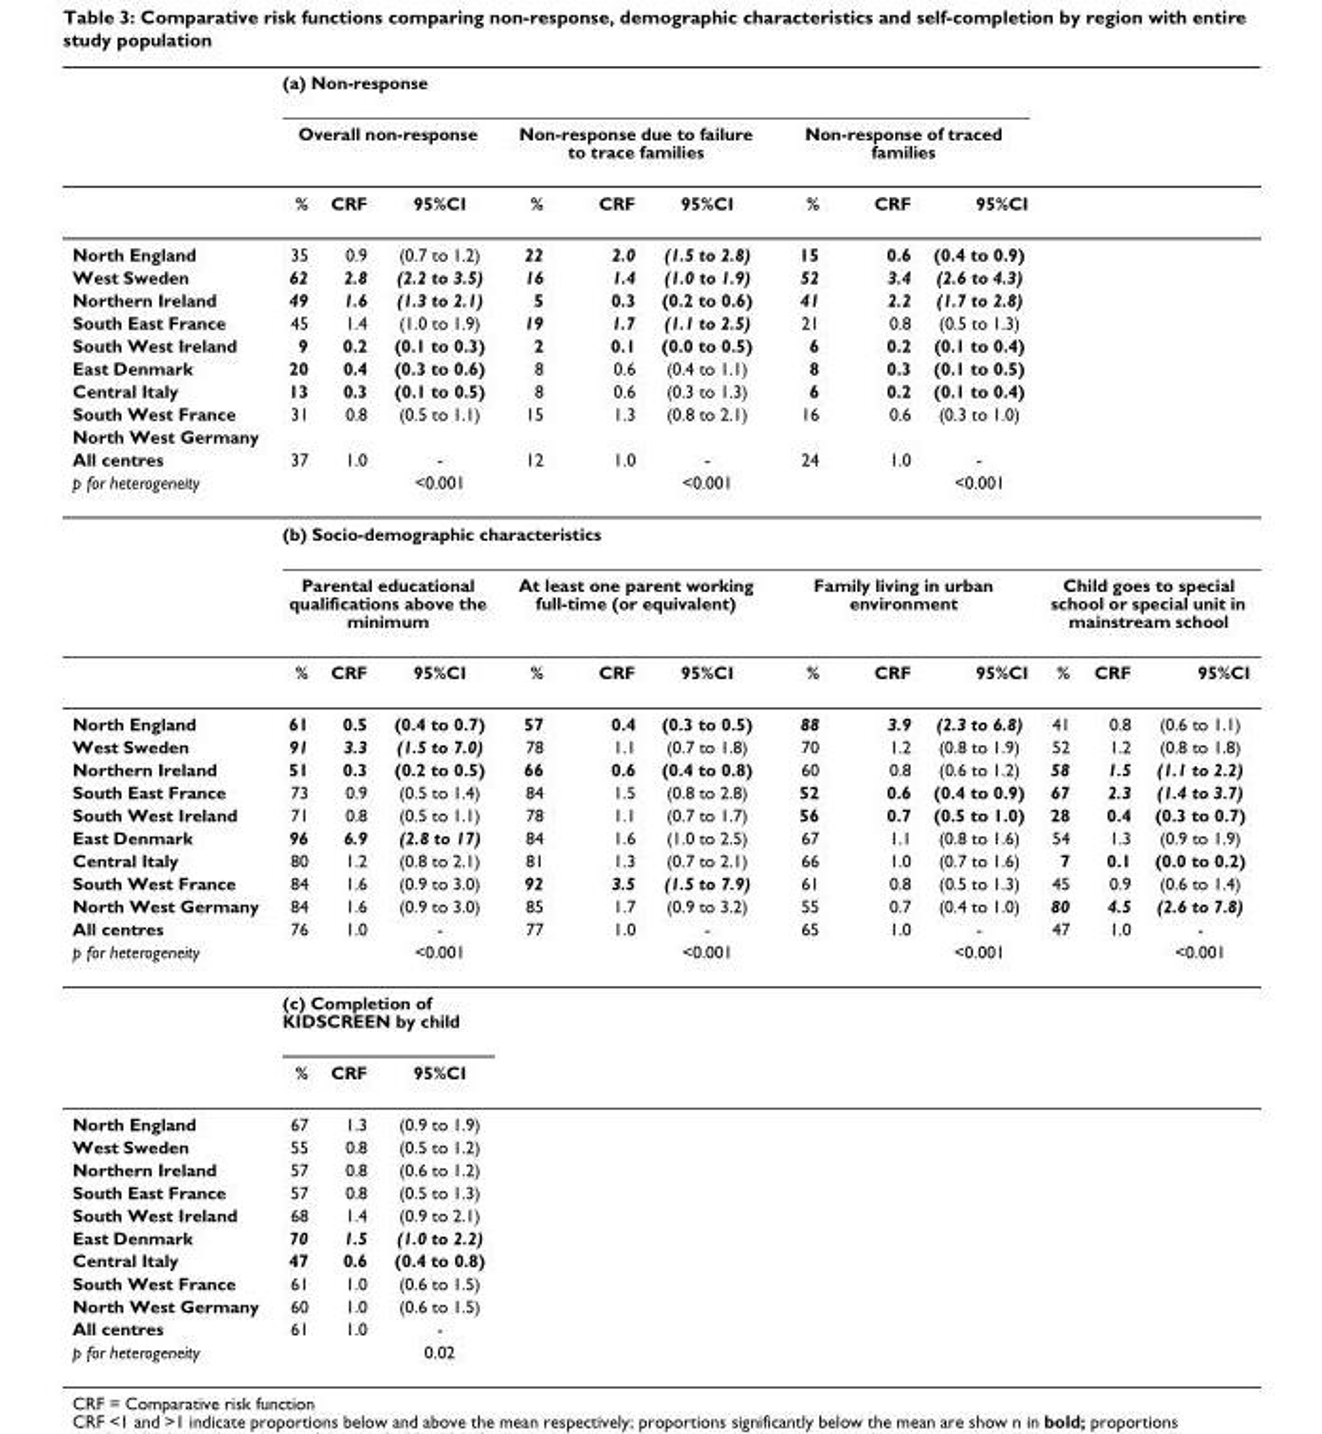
<table><thead><tr><td rowspan="3"></td><td colspan="9">(a) Non-response</td><td rowspan="3"></td><td rowspan="3"></td><td rowspan="3"></td></tr><tr><td colspan="3">Overall non-response</td><td colspan="3">Non-response due to failure to trace families</td><td colspan="3">Non-response of traced families</td></tr><tr><td>%</td><td>CRF</td><td>95%CI</td><td>%</td><td>CRF</td><td>95%CI</td><td>%</td><td>CRF</td><td>95%CI</td></tr></thead><tbody><tr><td>North England</td><td>35</td><td>0.9</td><td>(0.7 to 1.2)</td><td>22</td><td>2.0</td><td>(1.5 to 2.8)</td><td>15</td><td>0.6</td><td>(0.4 to 0.9)</td><td></td><td></td><td></td></tr><tr><td>West Sweden</td><td>62</td><td>2.8</td><td>(2.2 to 3.5)</td><td>16</td><td>1.4</td><td>(1.0 to 1.9)</td><td>52</td><td>3.4</td><td>(2.6 to 4.3)</td><td></td><td></td><td></td></tr><tr><td>Northern Ireland</td><td>49</td><td>1.6</td><td>(1.3 to 2.1)</td><td>5</td><td>0.3</td><td>(0.2 to 0.6)</td><td>41</td><td>2.2</td><td>(1.7 to 2.8)</td><td></td><td></td><td></td></tr><tr><td>South East France</td><td>45</td><td>1.4</td><td>(1.0 to 1.9)</td><td>19</td><td>1.7</td><td>(1.1 to 2.5)</td><td>21</td><td>0.8</td><td>(0.5 to 1.3)</td><td></td><td></td><td></td></tr><tr><td>South West Ireland</td><td>9</td><td>0.2</td><td>(0.1 to 0.3)</td><td>2</td><td>0.1</td><td>(0.0 to 0.5)</td><td>6</td><td>0.2</td><td>(0.1 to 0.4)</td><td></td><td></td><td></td></tr><tr><td>East Denmark</td><td>20</td><td>0.4</td><td>(0.3 to 0.6)</td><td>8</td><td>0.6</td><td>(0.4 to 1.1)</td><td>8</td><td>0.3</td><td>(0.1 to 0.5)</td><td></td><td></td><td></td></tr><tr><td>Central Italy</td><td>13</td><td>0.3</td><td>(0.1 to 0.5)</td><td>8</td><td>0.6</td><td>(0.3 to 1.3)</td><td>6</td><td>0.2</td><td>(0.1 to 0.4)</td><td></td><td></td><td></td></tr><tr><td>South West France</td><td>31</td><td>0.8</td><td>(0.5 to 1.1)</td><td>15</td><td>1.3</td><td>(0.8 to 2.1)</td><td>16</td><td>0.6</td><td>(0.3 to 1.0)</td><td></td><td></td><td></td></tr><tr><td colspan="13">North West Germany</td></tr><tr><td>All centres</td><td>37</td><td>1.0</td><td>-</td><td>12</td><td>1.0</td><td>-</td><td>24</td><td>1.0</td><td>-</td><td></td><td></td><td></td></tr><tr><td rowspan="4">p for heterogeneity</td><td></td><td></td><td>&lt;0.001</td><td></td><td></td><td>&lt;0.001</td><td></td><td></td><td>&lt;0.001</td><td></td><td></td><td></td></tr><tr><td colspan="12">(b) Socio-demographic characteristics</td></tr><tr><td colspan="3">Parental educational qualifications above the minimum</td><td colspan="3">At least one parent working full-time (or equivalent)</td><td colspan="3">Family living in urban environment</td><td colspan="3">Child goes to special school or special unit in mainstream school</td></tr><tr><td>%</td><td>CRF</td><td>95%CI</td><td>%</td><td>CRF</td><td>95%CI</td><td>%</td><td>CRF</td><td>95%CI</td><td>%</td><td>CRF</td><td>95%CI</td></tr><tr><td>North England</td><td>61</td><td>0.5</td><td>(0.4 to 0.7)</td><td>57</td><td>0.4</td><td>(0.3 to 0.5)</td><td>88</td><td>3.9</td><td>(2.3 to 6.8)</td><td>41</td><td>0.8</td><td>(0.6 to 1.1)</td></tr><tr><td>West Sweden</td><td>91</td><td>3.3</td><td>(1.5 to 7.0)</td><td>78</td><td>1.1</td><td>(0.7 to 1.8)</td><td>70</td><td>1.2</td><td>(0.8 to 1.9)</td><td>52</td><td>1.2</td><td>(0.8 to 1.8)</td></tr><tr><td>Northern Ireland</td><td>51</td><td>0.3</td><td>(0.2 to 0.5)</td><td>66</td><td>0.6</td><td>(0.4 to 0.8)</td><td>60</td><td>0.8</td><td>(0.6 to 1.2)</td><td>58</td><td>1.5</td><td>(1.1 to 2.2)</td></tr><tr><td>South East France</td><td>73</td><td>0.9</td><td>(0.5 to 1.4)</td><td>84</td><td>1.5</td><td>(0.8 to 2.8)</td><td>52</td><td>0.6</td><td>(0.4 to 0.9)</td><td>67</td><td>2.3</td><td>(1.4 to 3.7)</td></tr><tr><td>South West Ireland</td><td>71</td><td>0.8</td><td>(0.5 to 1.1)</td><td>78</td><td>1.1</td><td>(0.7 to 1.7)</td><td>56</td><td>0.7</td><td>(0.5 to 1.0)</td><td>28</td><td>0.4</td><td>(0.3 to 0.7)</td></tr><tr><td>East Denmark</td><td>96</td><td>6.9</td><td>(2.8 to 17)</td><td>84</td><td>1.6</td><td>(1.0 to 2.5)</td><td>67</td><td>1.1</td><td>(0.8 to 1.6)</td><td>54</td><td>1.3</td><td>(0.9 to 1.9)</td></tr><tr><td>Central Italy</td><td>80</td><td>1.2</td><td>(0.8 to 2.1)</td><td>81</td><td>1.3</td><td>(0.7 to 2.1)</td><td>66</td><td>1.0</td><td>(0.7 to 1.6)</td><td>7</td><td>0.1</td><td>(0.0 to 0.2)</td></tr><tr><td>South West France</td><td>84</td><td>1.6</td><td>(0.9 to 3.0)</td><td>92</td><td>3.5</td><td>(1.5 to 7.9)</td><td>61</td><td>0.8</td><td>(0.5 to 1.3)</td><td>45</td><td>0.9</td><td>(0.6 to 1.4)</td></tr><tr><td>North West Germany</td><td>84</td><td>1.6</td><td>(0.9 to 3.0)</td><td>85</td><td>1.7</td><td>(0.9 to 3.2)</td><td>55</td><td>0.7</td><td>(0.4 to 1.0)</td><td>80</td><td>4.5</td><td>(2.6 to 7.8)</td></tr><tr><td>All centres</td><td>76</td><td>1.0</td><td>-</td><td>77</td><td>1.0</td><td>-</td><td>65</td><td>1.0</td><td>-</td><td>47</td><td>1.0</td><td>-</td></tr><tr><td rowspan="3">p for heterogeneity</td><td></td><td></td><td>&lt;0.001</td><td></td><td></td><td>&lt;0.001</td><td></td><td></td><td>&lt;0.001</td><td></td><td></td><td>&lt;0.001</td></tr><tr><td colspan="3">(c) Completion of KIDSCREEN by child</td><td></td><td></td><td></td><td></td><td></td><td></td><td></td><td></td><td></td></tr><tr><td>%</td><td>CRF</td><td>95%CI</td><td></td><td></td><td></td><td></td><td></td><td></td><td></td><td></td><td></td></tr><tr><td>North England</td><td>67</td><td>1.3</td><td>(0.9 to 1.9)</td><td></td><td></td><td></td><td></td><td></td><td></td><td></td><td></td><td></td></tr><tr><td>West Sweden</td><td>55</td><td>0.8</td><td>(0.5 to 1.2)</td><td></td><td></td><td></td><td></td><td></td><td></td><td></td><td></td><td></td></tr><tr><td>Northern Ireland</td><td>57</td><td>0.8</td><td>(0.6 to 1.2)</td><td></td><td></td><td></td><td></td><td></td><td></td><td></td><td></td><td></td></tr><tr><td>South East France</td><td>57</td><td>0.8</td><td>(0.5 to 1.3)</td><td></td><td></td><td></td><td></td><td></td><td></td><td></td><td></td><td></td></tr><tr><td>South West Ireland</td><td>68</td><td>1.4</td><td>(0.9 to 2.1)</td><td></td><td></td><td></td><td></td><td></td><td></td><td></td><td></td><td></td></tr><tr><td>East Denmark</td><td>70</td><td>1.5</td><td>(1.0 to 2.2)</td><td></td><td></td><td></td><td></td><td></td><td></td><td></td><td></td><td></td></tr><tr><td>Central Italy</td><td>47</td><td>0.6</td><td>(0.4 to 0.8)</td><td></td><td></td><td></td><td></td><td></td><td></td><td></td><td></td><td></td></tr><tr><td>South West France</td><td>61</td><td>1.0</td><td>(0.6 to 1.5)</td><td></td><td></td><td></td><td></td><td></td><td></td><td></td><td></td><td></td></tr><tr><td>North West Germany</td><td>60</td><td>1.0</td><td>(0.6 to 1.5)</td><td></td><td></td><td></td><td></td><td></td><td></td><td></td><td></td><td></td></tr><tr><td>All centres</td><td>61</td><td>1.0</td><td>-</td><td></td><td></td><td></td><td></td><td></td><td></td><td></td><td></td><td></td></tr><tr><td>p for heterogeneity</td><td></td><td></td><td>0.02</td><td></td><td></td><td></td><td></td><td></td><td></td><td></td><td></td><td></td></tr></tbody></table>